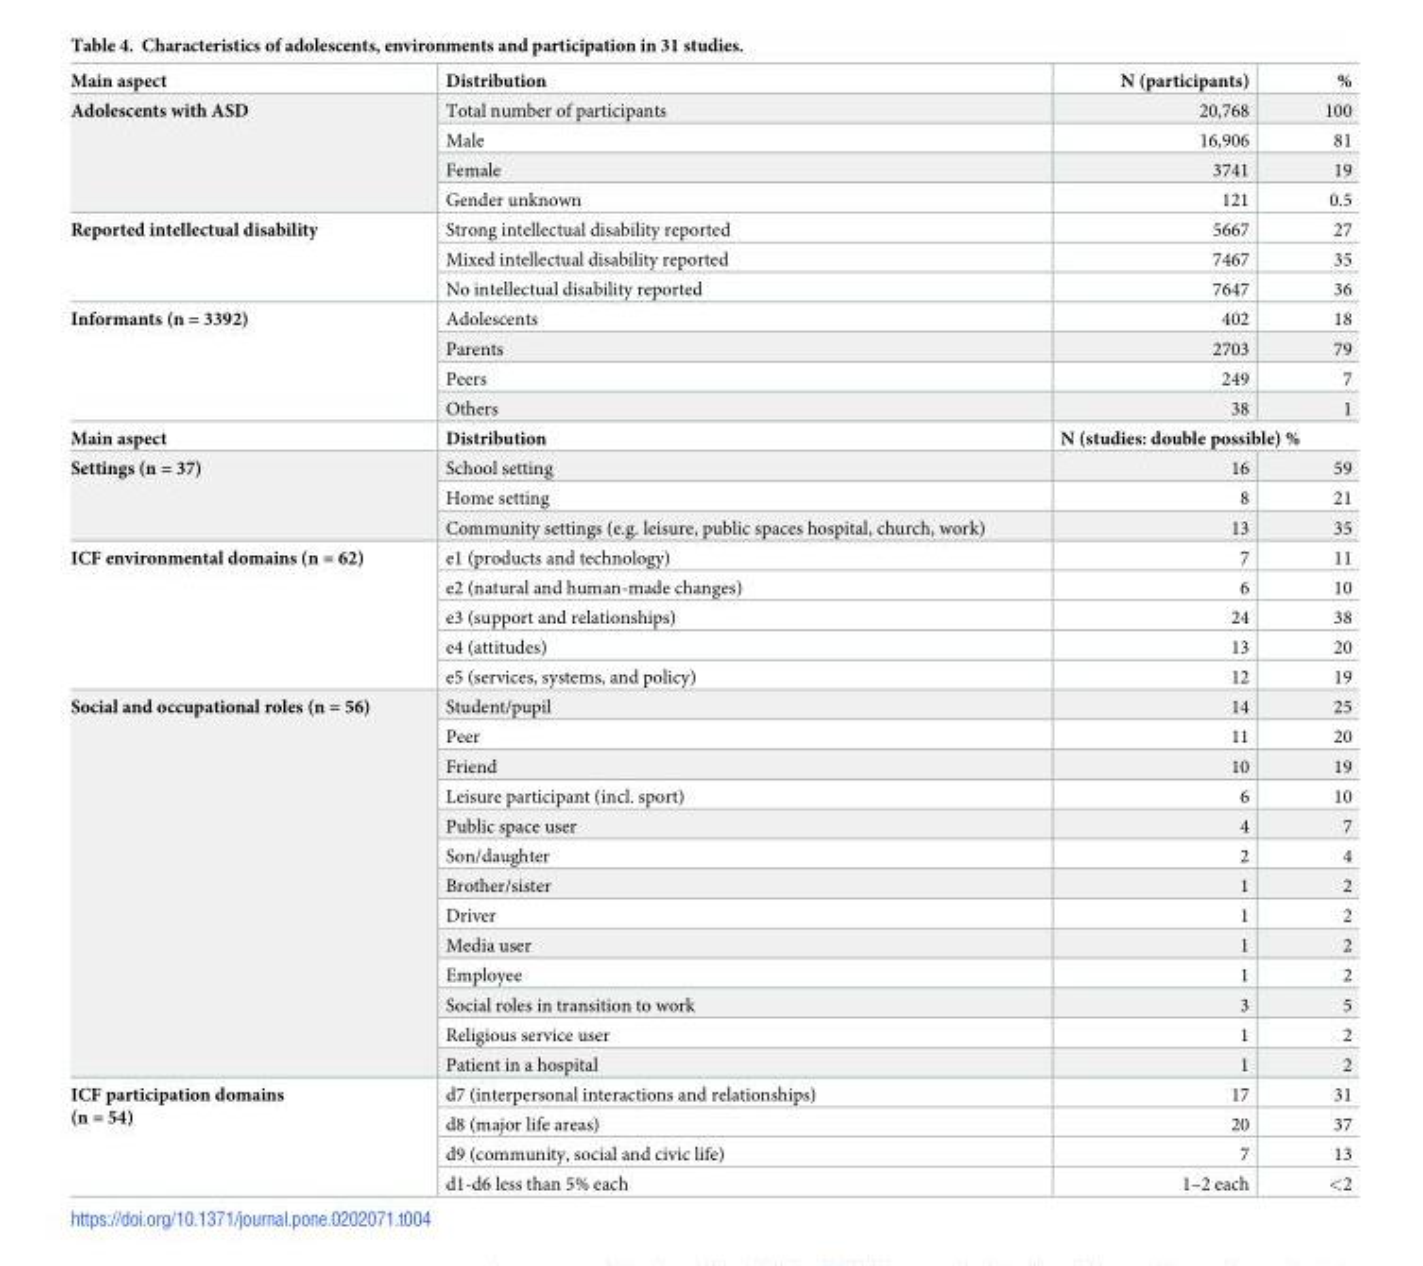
<table><tbody><tr><td>Main aspect</td><td>Distribution</td><td>N (participants)</td><td>%</td></tr><tr><td rowspan="4">Adolescents with ASD</td><td>Total number of participants</td><td>20,768</td><td>100</td></tr><tr><td>Male</td><td>16,906</td><td>81</td></tr><tr><td>Female</td><td>3741</td><td>19</td></tr><tr><td>Gender unknown</td><td>121</td><td>0.5</td></tr><tr><td rowspan="3">Reported intellectual disability</td><td>Strong intellectual disability reported</td><td>5667</td><td>27</td></tr><tr><td>Mixed intellectual disability reported</td><td>7467</td><td>35</td></tr><tr><td>No intellectual disability reported</td><td>7647</td><td>36</td></tr><tr><td rowspan="4">Informants (n = 3392)</td><td>Adolescents</td><td>402</td><td>18</td></tr><tr><td>Parents</td><td>2703</td><td>79</td></tr><tr><td>Peers</td><td>249</td><td>7</td></tr><tr><td>Others</td><td>38</td><td>1</td></tr><tr><td>Main aspect</td><td>Distribution</td><td colspan="2">N (studies: double possible) %</td></tr><tr><td rowspan="3">Settings (n = 37)</td><td>School setting</td><td>16</td><td>59</td></tr><tr><td>Home setting</td><td>8</td><td>21</td></tr><tr><td>Community settings (e.g. leisure, public spaces hospital, church, work)</td><td>13</td><td>35</td></tr><tr><td rowspan="5">ICF environmental domains (n = 62)</td><td>e1 (products and technology)</td><td>7</td><td>11</td></tr><tr><td>e2 (natural and human-made changes)</td><td>6</td><td>10</td></tr><tr><td>e3 (support and relationships)</td><td>24</td><td>38</td></tr><tr><td>e4 (attitudes)</td><td>13</td><td>20</td></tr><tr><td>e5 (services, systems, and policy)</td><td>12</td><td>19</td></tr><tr><td rowspan="13">Social and occupational roles (n = 56)</td><td>Student/pupil</td><td>14</td><td>25</td></tr><tr><td>Peer</td><td>11</td><td>20</td></tr><tr><td>Friend</td><td>10</td><td>19</td></tr><tr><td>Leisure participant (incl. sport)</td><td>6</td><td>10</td></tr><tr><td>Public space user</td><td>4</td><td>7</td></tr><tr><td>Son/daughter</td><td>2</td><td>4</td></tr><tr><td>Brother/sister</td><td>1</td><td>2</td></tr><tr><td>Driver</td><td>1</td><td>2</td></tr><tr><td>Media user</td><td>1</td><td>2</td></tr><tr><td>Employee</td><td>1</td><td>2</td></tr><tr><td>Social roles in transition to work</td><td>3</td><td>5</td></tr><tr><td>Religious service user</td><td>1</td><td>2</td></tr><tr><td>Patient in a hospital</td><td>1</td><td>2</td></tr><tr><td rowspan="4">ICF participation domains (n = 54)</td><td>d7 (interpersonal interactions and relationships)</td><td>17</td><td>31</td></tr><tr><td>d8 (major life areas)</td><td>20</td><td>37</td></tr><tr><td>d9 (community, social and civic life)</td><td>7</td><td>13</td></tr><tr><td>d1-d6 less than 5% each</td><td>1–2 each</td><td>&lt;2</td></tr></tbody></table>